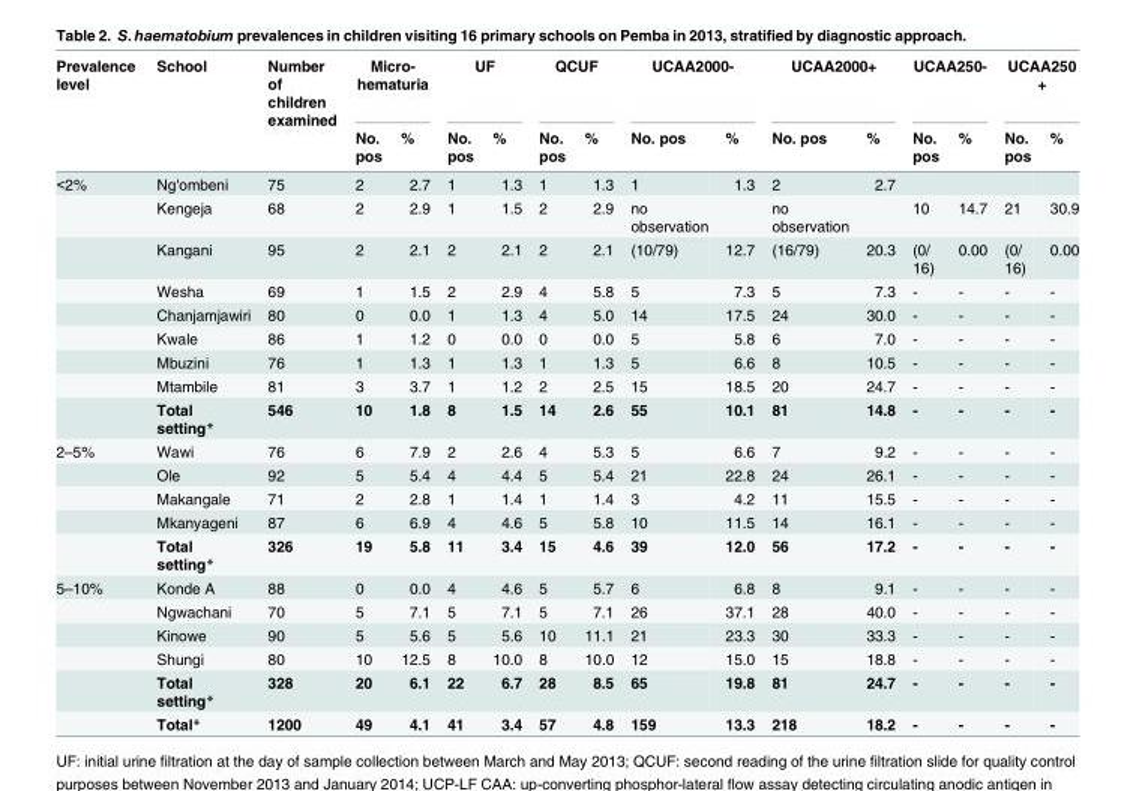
<table><thead><tr><td rowspan="2">Prevalence level</td><td rowspan="2">School</td><td rowspan="2">Number of children examined</td><td colspan="2">Micro- hematuria</td><td colspan="2">UF</td><td colspan="2">QCUF</td><td colspan="2">UCAA2000-</td><td colspan="2">UCAA2000+</td><td colspan="2">UCAA250-</td><td colspan="2">UCAA250 +</td></tr><tr><td>No. pos</td><td>%</td><td>No. pos</td><td>%</td><td>No. pos</td><td>%</td><td>No. pos</td><td>%</td><td>No. pos</td><td>%</td><td>No. pos</td><td>%</td><td>No. pos</td><td>%</td></tr></thead><tbody><tr><td rowspan="9">&lt;2%</td><td>Ng&#x27;ombeni</td><td>75</td><td>2</td><td>2.7</td><td>1</td><td>1.3</td><td>1</td><td>1.3</td><td>1</td><td>1.3</td><td>2</td><td>2.7</td><td></td><td></td><td></td><td></td></tr><tr><td>Kengeja</td><td>68</td><td>2</td><td>2.9</td><td>1</td><td>1.5</td><td>2</td><td>2.9</td><td>no observation</td><td></td><td>no observation</td><td></td><td>10</td><td>14.7</td><td>21</td><td>30.9</td></tr><tr><td>Kangani</td><td>95</td><td>2</td><td>2.1</td><td>2</td><td>2.1</td><td>2</td><td>2.1</td><td>(10/79)</td><td>12.7</td><td>(16/79)</td><td>20.3</td><td>(0/ 16)</td><td>0.00</td><td>(0/ 16)</td><td>0.00</td></tr><tr><td>Wesha</td><td>69</td><td>1</td><td>1.5</td><td>2</td><td>2.9</td><td>4</td><td>5.8</td><td>5</td><td>7.3</td><td>5</td><td>7.3</td><td>-</td><td>-</td><td>-</td><td>-</td></tr><tr><td>Chanjamjawiri</td><td>80</td><td>0</td><td>0.0</td><td>1</td><td>1.3</td><td>4</td><td>5.0</td><td>14</td><td>17.5</td><td>24</td><td>30.0</td><td>-</td><td>-</td><td>-</td><td>-</td></tr><tr><td>Kwale</td><td>86</td><td>1</td><td>1.2</td><td>0</td><td>0.0</td><td>0</td><td>0.0</td><td>5</td><td>5.8</td><td>6</td><td>7.0</td><td>-</td><td>-</td><td>-</td><td>-</td></tr><tr><td>Mbuzini</td><td>76</td><td>1</td><td>1.3</td><td>1</td><td>1.3</td><td>1</td><td>1.3</td><td>5</td><td>6.6</td><td>8</td><td>10.5</td><td>-</td><td>-</td><td>-</td><td>-</td></tr><tr><td>Mtambile</td><td>81</td><td>3</td><td>3.7</td><td>1</td><td>1.2</td><td>2</td><td>2.5</td><td>15</td><td>18.5</td><td>20</td><td>24.7</td><td>-</td><td>-</td><td>-</td><td>-</td></tr><tr><td>Total setting*</td><td>546</td><td>10</td><td>1.8</td><td>8</td><td>1.5</td><td>14</td><td>2.6</td><td>55</td><td>10.1</td><td>81</td><td>14.8</td><td>-</td><td>-</td><td>-</td><td>-</td></tr><tr><td rowspan="5">2–5%</td><td>Wawi</td><td>76</td><td>6</td><td>7.9</td><td>2</td><td>2.6</td><td>4</td><td>5.3</td><td>5</td><td>6.6</td><td>7</td><td>9.2</td><td>-</td><td>-</td><td>-</td><td>-</td></tr><tr><td>Ole</td><td>92</td><td>5</td><td>5.4</td><td>4</td><td>4.4</td><td>5</td><td>5.4</td><td>21</td><td>22.8</td><td>24</td><td>26.1</td><td>-</td><td>-</td><td>-</td><td>-</td></tr><tr><td>Makangale</td><td>71</td><td>2</td><td>2.8</td><td>1</td><td>1.4</td><td>1</td><td>1.4</td><td>3</td><td>4.2</td><td>11</td><td>15.5</td><td>-</td><td>-</td><td>-</td><td>-</td></tr><tr><td>Mkanyageni</td><td>87</td><td>6</td><td>6.9</td><td>4</td><td>4.6</td><td>5</td><td>5.8</td><td>10</td><td>11.5</td><td>14</td><td>16.1</td><td>-</td><td>-</td><td>-</td><td>-</td></tr><tr><td>Total setting*</td><td>326</td><td>19</td><td>5.8</td><td>11</td><td>3.4</td><td>15</td><td>4.6</td><td>39</td><td>12.0</td><td>56</td><td>17.2</td><td>-</td><td>-</td><td>-</td><td>-</td></tr><tr><td rowspan="6">5–10%</td><td>Konde A</td><td>88</td><td>0</td><td>0.0</td><td>4</td><td>4.6</td><td>5</td><td>5.7</td><td>6</td><td>6.8</td><td>8</td><td>9.1</td><td>-</td><td>-</td><td>-</td><td>-</td></tr><tr><td>Ngwachani</td><td>70</td><td>5</td><td>7.1</td><td>5</td><td>7.1</td><td>5</td><td>7.1</td><td>26</td><td>37.1</td><td>28</td><td>40.0</td><td>-</td><td>-</td><td>-</td><td>-</td></tr><tr><td>Kinowe</td><td>90</td><td>5</td><td>5.6</td><td>5</td><td>5.6</td><td>10</td><td>11.1</td><td>21</td><td>23.3</td><td>30</td><td>33.3</td><td>-</td><td>-</td><td>-</td><td>-</td></tr><tr><td>Shungi</td><td>80</td><td>10</td><td>12.5</td><td>8</td><td>10.0</td><td>8</td><td>10.0</td><td>12</td><td>15.0</td><td>15</td><td>18.8</td><td>-</td><td>-</td><td>-</td><td>-</td></tr><tr><td>Total setting*</td><td>328</td><td>20</td><td>6.1</td><td>22</td><td>6.7</td><td>28</td><td>8.5</td><td>65</td><td>19.8</td><td>81</td><td>24.7</td><td>-</td><td>-</td><td>-</td><td>-</td></tr><tr><td>Total*</td><td>1200</td><td>49</td><td>4.1</td><td>41</td><td>3.4</td><td>57</td><td>4.8</td><td>159</td><td>13.3</td><td>218</td><td>18.2</td><td>-</td><td>-</td><td>-</td><td>-</td></tr></tbody></table>